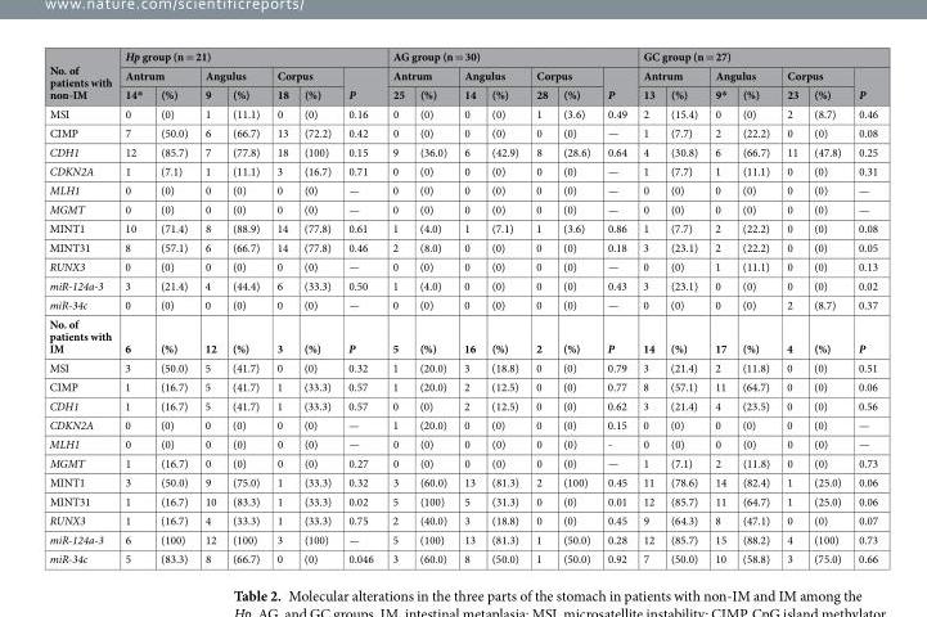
<table><thead><tr><td rowspan="3">No. of patients with non-IM</td><td colspan="7">Hp group (n = 21)</td><td colspan="7">AG group (n = 30)</td><td colspan="7">GC group (n = 27)</td></tr><tr><td colspan="2">Antrum</td><td colspan="2">Angulus</td><td colspan="2">Corpus</td><td rowspan="2">P</td><td colspan="2">Antrum</td><td colspan="2">Angulus</td><td colspan="2">Corpus</td><td rowspan="2">P</td><td colspan="2">Antrum</td><td colspan="2">Angulus</td><td colspan="2">Corpus</td><td rowspan="2">P</td></tr><tr><td>14*</td><td>(%)</td><td>9</td><td>(%)</td><td>18</td><td>(%)</td><td>25</td><td>(%)</td><td>14</td><td>(%)</td><td>28</td><td>(%)</td><td>13</td><td>(%)</td><td>9*</td><td>(%)</td><td>23</td><td>(%)</td></tr></thead><tbody><tr><td>MSI</td><td>0</td><td>(0)</td><td>1</td><td>(11.1)</td><td>0</td><td>(0)</td><td>0.16</td><td>0</td><td>(0)</td><td>0</td><td>(0)</td><td>1</td><td>(3.6)</td><td>0.49</td><td>2</td><td>(15.4)</td><td>0</td><td>(0)</td><td>2</td><td>(8.7)</td><td>0.46</td></tr><tr><td>CIMP</td><td>7</td><td>(50.0)</td><td>6</td><td>(66.7)</td><td>13</td><td>(72.2)</td><td>0.42</td><td>0</td><td>(0)</td><td>0</td><td>(0)</td><td>0</td><td>(0)</td><td>—</td><td>1</td><td>(7.7)</td><td>2</td><td>(22.2)</td><td>0</td><td>(0)</td><td>0.08</td></tr><tr><td>CDH1</td><td>12</td><td>(85.7)</td><td>7</td><td>(77.8)</td><td>18</td><td>(100)</td><td>0.15</td><td>9</td><td>(36.0)</td><td>6</td><td>(42.9)</td><td>8</td><td>(28.6)</td><td>0.64</td><td>4</td><td>(30.8)</td><td>6</td><td>(66.7)</td><td>11</td><td>(47.8)</td><td>0.25</td></tr><tr><td>CDKN2A</td><td>1</td><td>(7.1)</td><td>1</td><td>(11.1)</td><td>3</td><td>(16.7)</td><td>0.71</td><td>0</td><td>(0)</td><td>0</td><td>(0)</td><td>0</td><td>(0)</td><td>—</td><td>1</td><td>(7.7)</td><td>1</td><td>(11.1)</td><td>0</td><td>(0)</td><td>0.31</td></tr><tr><td>MLH1</td><td>0</td><td>(0)</td><td>0</td><td>(0)</td><td>0</td><td>(0)</td><td>—</td><td>0</td><td>(0)</td><td>0</td><td>(0)</td><td>0</td><td>(0)</td><td>—</td><td>0</td><td>(0)</td><td>0</td><td>(0)</td><td>0</td><td>(0)</td><td>—</td></tr><tr><td>MGMT</td><td>0</td><td>(0)</td><td>0</td><td>(0)</td><td>0</td><td>(0)</td><td>—</td><td>0</td><td>(0)</td><td>0</td><td>(0)</td><td>0</td><td>(0)</td><td>—</td><td>0</td><td>(0)</td><td>0</td><td>(0)</td><td>0</td><td>(0)</td><td>—</td></tr><tr><td>MINT1</td><td>10</td><td>(71.4)</td><td>8</td><td>(88.9)</td><td>14</td><td>(77.8)</td><td>0.61</td><td>1</td><td>(4.0)</td><td>1</td><td>(7.1)</td><td>1</td><td>(3.6)</td><td>0.86</td><td>1</td><td>(7.7)</td><td>2</td><td>(22.2)</td><td>0</td><td>(0)</td><td>0.08</td></tr><tr><td>MINT31</td><td>8</td><td>(57.1)</td><td>6</td><td>(66.7)</td><td>14</td><td>(77.8)</td><td>0.46</td><td>2</td><td>(8.0)</td><td>0</td><td>(0)</td><td>0</td><td>(0)</td><td>0.18</td><td>3</td><td>(23.1)</td><td>2</td><td>(22.2)</td><td>0</td><td>(0)</td><td>0.05</td></tr><tr><td>RUNX3</td><td>0</td><td>(0)</td><td>0</td><td>(0)</td><td>0</td><td>(0)</td><td>—</td><td>0</td><td>(0)</td><td>0</td><td>(0)</td><td>0</td><td>(0)</td><td>—</td><td>0</td><td>(0)</td><td>1</td><td>(11.1)</td><td>0</td><td>(0)</td><td>0.13</td></tr><tr><td>miR-124a-3</td><td>3</td><td>(21.4)</td><td>4</td><td>(44.4)</td><td>6</td><td>(33.3)</td><td>0.50</td><td>1</td><td>(4.0)</td><td>0</td><td>(0)</td><td>0</td><td>(0)</td><td>0.43</td><td>3</td><td>(23.1)</td><td>0</td><td>(0)</td><td>0</td><td>(0)</td><td>0.02</td></tr><tr><td>miR-34c</td><td>0</td><td>(0)</td><td>0</td><td>(0)</td><td>0</td><td>(0)</td><td>—</td><td>0</td><td>(0)</td><td>0</td><td>(0)</td><td>0</td><td>(0)</td><td>—</td><td>0</td><td>(0)</td><td>0</td><td>(0)</td><td>2</td><td>(8.7)</td><td>0.37</td></tr><tr><td>No. of patients with IM</td><td>6</td><td>(%)</td><td>12</td><td>(%)</td><td>3</td><td>(%)</td><td>P</td><td>5</td><td>(%)</td><td>16</td><td>(%)</td><td>2</td><td>(%)</td><td>P</td><td>14</td><td>(%)</td><td>17</td><td>(%)</td><td>4</td><td>(%)</td><td>P</td></tr><tr><td>MSI</td><td>3</td><td>(50.0)</td><td>5</td><td>(41.7)</td><td>0</td><td>(0)</td><td>0.32</td><td>1</td><td>(20.0)</td><td>3</td><td>(18.8)</td><td>0</td><td>(0)</td><td>0.79</td><td>3</td><td>(21.4)</td><td>2</td><td>(11.8)</td><td>0</td><td>(0)</td><td>0.51</td></tr><tr><td>CIMP</td><td>1</td><td>(16.7)</td><td>5</td><td>(41.7)</td><td>1</td><td>(33.3)</td><td>0.57</td><td>1</td><td>(20.0)</td><td>2</td><td>(12.5)</td><td>0</td><td>(0)</td><td>0.77</td><td>8</td><td>(57.1)</td><td>11</td><td>(64.7)</td><td>0</td><td>(0)</td><td>0.06</td></tr><tr><td>CDH1</td><td>1</td><td>(16.7)</td><td>5</td><td>(41.7)</td><td>1</td><td>(33.3)</td><td>0.57</td><td>0</td><td>(0)</td><td>2</td><td>(12.5)</td><td>0</td><td>(0)</td><td>0.62</td><td>3</td><td>(21.4)</td><td>4</td><td>(23.5)</td><td>0</td><td>(0)</td><td>0.56</td></tr><tr><td>CDKN2A</td><td>0</td><td>(0)</td><td>0</td><td>(0)</td><td>0</td><td>(0)</td><td>—</td><td>1</td><td>(20.0)</td><td>0</td><td>(0)</td><td>0</td><td>(0)</td><td>0.15</td><td>0</td><td>(0)</td><td>0</td><td>(0)</td><td>0</td><td>(0)</td><td>—</td></tr><tr><td>MLH1</td><td>0</td><td>(0)</td><td>0</td><td>(0)</td><td>0</td><td>(0)</td><td>—</td><td>0</td><td>(0)</td><td>0</td><td>(0)</td><td>0</td><td>(0)</td><td>-</td><td>0</td><td>(0)</td><td>0</td><td>(0)</td><td>0</td><td>(0)</td><td>—</td></tr><tr><td>MGMT</td><td>1</td><td>(16.7)</td><td>0</td><td>(0)</td><td>0</td><td>(0)</td><td>0.27</td><td>0</td><td>(0)</td><td>0</td><td>(0)</td><td>0</td><td>(0)</td><td>—</td><td>1</td><td>(7.1)</td><td>2</td><td>(11.8)</td><td>0</td><td>(0)</td><td>0.73</td></tr><tr><td>MINT1</td><td>3</td><td>(50.0)</td><td>9</td><td>(75.0)</td><td>1</td><td>(33.3)</td><td>0.32</td><td>3</td><td>(60.0)</td><td>13</td><td>(81.3)</td><td>2</td><td>(100)</td><td>0.45</td><td>11</td><td>(78.6)</td><td>14</td><td>(82.4)</td><td>1</td><td>(25.0)</td><td>0.06</td></tr><tr><td>MINT31</td><td>1</td><td>(16.7)</td><td>10</td><td>(83.3)</td><td>1</td><td>(33.3)</td><td>0.02</td><td>5</td><td>(100)</td><td>5</td><td>(31.3)</td><td>0</td><td>(0)</td><td>0.01</td><td>12</td><td>(85.7)</td><td>11</td><td>(64.7)</td><td>1</td><td>(25.0)</td><td>0.06</td></tr><tr><td>RUNX3</td><td>1</td><td>(16.7)</td><td>4</td><td>(33.3)</td><td>1</td><td>(33.3)</td><td>0.75</td><td>2</td><td>(40.0)</td><td>3</td><td>(18.8)</td><td>0</td><td>(0)</td><td>0.45</td><td>9</td><td>(64.3)</td><td>8</td><td>(47.1)</td><td>0</td><td>(0)</td><td>0.07</td></tr><tr><td>miR-124a-3</td><td>6</td><td>(100)</td><td>12</td><td>(100)</td><td>3</td><td>(100)</td><td>—</td><td>5</td><td>(100)</td><td>13</td><td>(81.3)</td><td>1</td><td>(50.0)</td><td>0.28</td><td>12</td><td>(85.7)</td><td>15</td><td>(88.2)</td><td>4</td><td>(100)</td><td>0.73</td></tr><tr><td>miR-34c</td><td>5</td><td>(83.3)</td><td>8</td><td>(66.7)</td><td>0</td><td>(0)</td><td>0.046</td><td>3</td><td>(60.0)</td><td>8</td><td>(50.0)</td><td>1</td><td>(50.0)</td><td>0.92</td><td>7</td><td>(50.0)</td><td>10</td><td>(58.8)</td><td>3</td><td>(75.0)</td><td>0.66</td></tr></tbody></table>